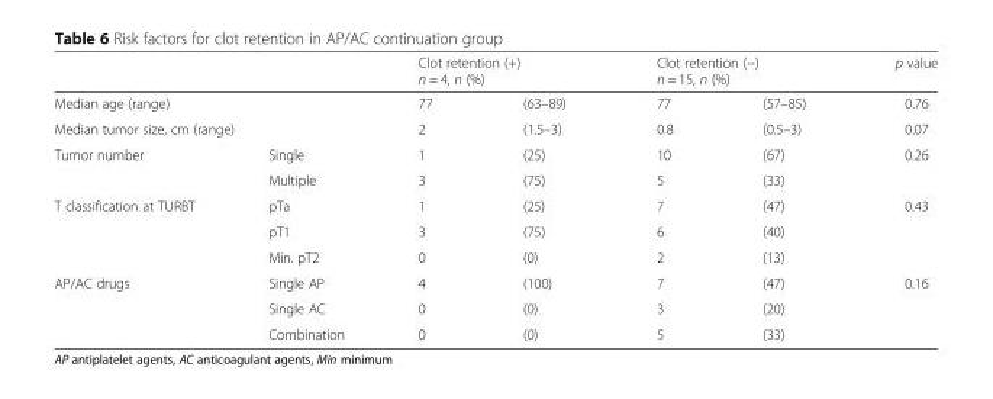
<table><thead><tr><td></td><td></td><td colspan="2">Clot retention (+) n = 4, n (%)</td><td colspan="2">Clot retention (−) n = 15, n (%)</td><td rowspan="2">p value 0.76</td></tr><tr><td colspan="2">Median age (range)</td><td>77</td><td>(63–89)</td><td>77</td><td>(57–85)</td></tr></thead><tbody><tr><td colspan="2">Median tumor size, cm (range)</td><td>2</td><td>(1.5–3)</td><td>0.8</td><td>(0.5–3)</td><td>0.07</td></tr><tr><td rowspan="2">Tumor number</td><td>Single</td><td>1</td><td>(25)</td><td>10</td><td>(67)</td><td>0.26</td></tr><tr><td>Multiple</td><td>3</td><td>(75)</td><td>5</td><td>(33)</td><td></td></tr><tr><td rowspan="3">T classification at TURBT</td><td>pTa</td><td>1</td><td>(25)</td><td>7</td><td>(47)</td><td>0.43</td></tr><tr><td>pT1</td><td>3</td><td>(75)</td><td>6</td><td>(40)</td><td></td></tr><tr><td>Min. pT2</td><td>0</td><td>(0)</td><td>2</td><td>(13)</td><td></td></tr><tr><td rowspan="3">AP/AC drugs</td><td>Single AP</td><td>4</td><td>(100)</td><td>7</td><td>(47)</td><td>0.16</td></tr><tr><td>Single AC</td><td>0</td><td>(0)</td><td>3</td><td>(20)</td><td></td></tr><tr><td>Combination</td><td>0</td><td>(0)</td><td>5</td><td>(33)</td><td></td></tr></tbody></table>